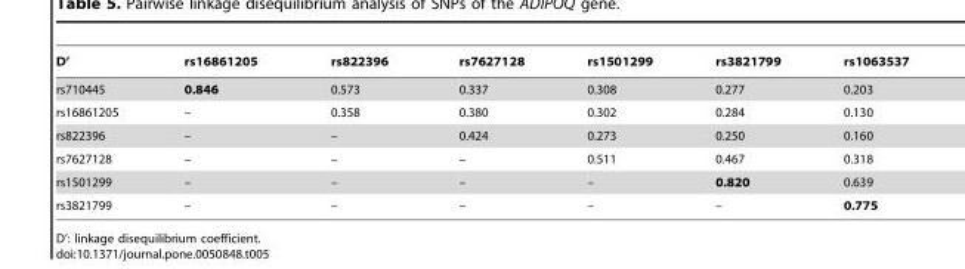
<table><thead><tr><td>D’</td><td>rs16861205</td><td>rs822396</td><td>rs7627128</td><td>rs1501299</td><td>rs3821799</td><td>rs1063537</td></tr></thead><tbody><tr><td>rs710445</td><td>0.846</td><td>0.573</td><td>0.337</td><td>0.308</td><td>0.277</td><td>0.203</td></tr><tr><td>rs16861205</td><td>–</td><td>0.358</td><td>0.380</td><td>0.302</td><td>0.284</td><td>0.130</td></tr><tr><td>rs822396</td><td>–</td><td>–</td><td>0.424</td><td>0.273</td><td>0.250</td><td>0.160</td></tr><tr><td>rs7627128</td><td>–</td><td>–</td><td>–</td><td>0.511</td><td>0.467</td><td>0.318</td></tr><tr><td>rs1501299</td><td>–</td><td>–</td><td>–</td><td>–</td><td>0.820</td><td>0.639</td></tr><tr><td>rs3821799</td><td>–</td><td>–</td><td>–</td><td>–</td><td>–</td><td>0.775</td></tr></tbody></table>